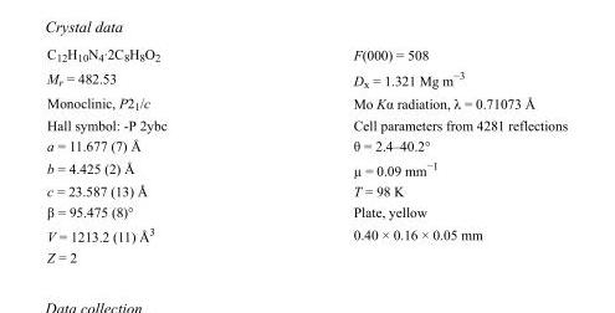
<table><tbody><tr><td>C<sub>12</sub>H<sub>10</sub>N<sub>4</sub>·2C<sub>8</sub>H<sub>8</sub>O<sub>2</sub></td><td>F(000) = 508</td></tr><tr><td>M<sub>r</sub> = 482.53</td><td>D<sub>x</sub> = 1.321 Mg m<sup>−3</sup></td></tr><tr><td>Monoclinic, P2<sub>1</sub>/c</td><td>Mo Kα radiation, λ = 0.71073 Å</td></tr><tr><td>Hall symbol: -P 2ybc</td><td>Cell parameters from 4281 reflections</td></tr><tr><td>a = 11.677 (7) Å</td><td>θ = 2.4–40.2°</td></tr><tr><td>b = 4.425 (2) Å</td><td>µ = 0.09 mm<sup>−1</sup></td></tr><tr><td>c = 23.587 (13) Å</td><td>T = 98 K</td></tr><tr><td>β = 95.475 (8)°</td><td>Plate, yellow</td></tr><tr><td>V = 1213.2 (11) Å<sup>3</sup></td><td>0.40 × 0.16 × 0.05 mm</td></tr><tr><td>Z = 2</td><td></td></tr></tbody></table>